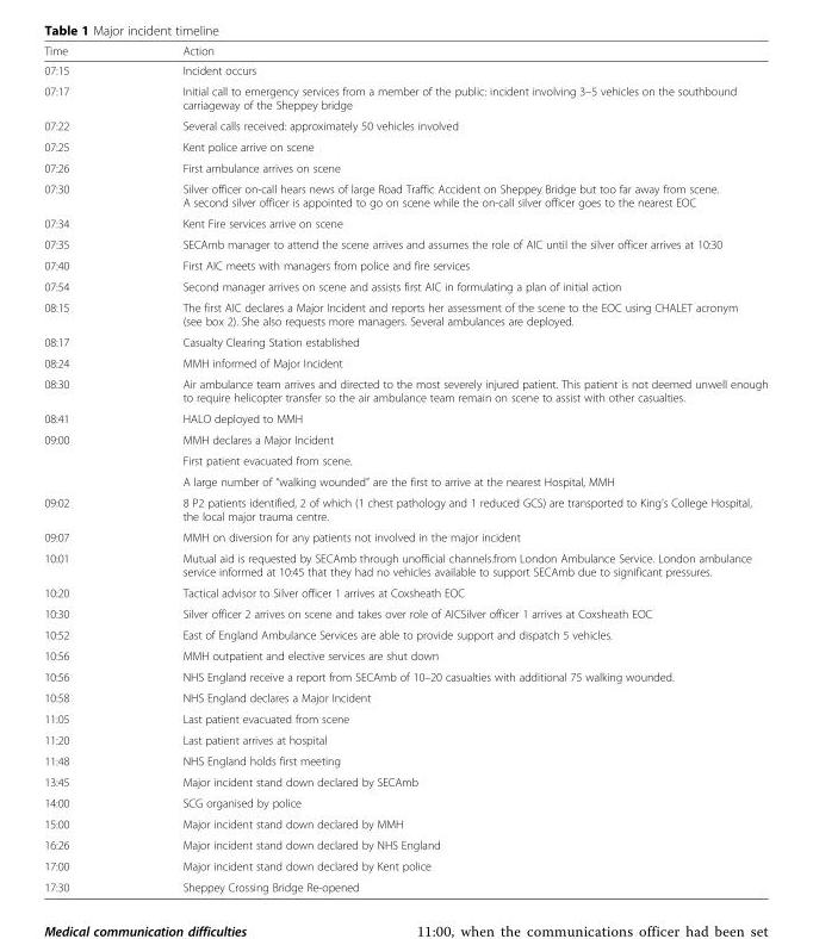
<table><thead><tr><td>Time</td><td>Action</td></tr></thead><tbody><tr><td>07:15</td><td>Incident occurs</td></tr><tr><td>07:17</td><td>Initial call to emergency services from a member of the public: incident involving 3–5 vehicles on the southbound carriageway of the Sheppey bridge</td></tr><tr><td>07:22</td><td>Several calls received: approximately 50 vehicles involved</td></tr><tr><td>07:25</td><td>Kent police arrive on scene</td></tr><tr><td>07:26</td><td>First ambulance arrives on scene</td></tr><tr><td>07:30</td><td>Silver officer on-call hears news of large Road Traffic Accident on Sheppey Bridge but too far away from scene. A second silver officer is appointed to go on scene while the on-call silver officer goes to the nearest EOC</td></tr><tr><td>07:34</td><td>Kent Fire services arrive on scene</td></tr><tr><td>07:35</td><td>SECAmb manager to attend the scene arrives and assumes the role of AIC until the silver officer arrives at 10:30</td></tr><tr><td>07:40</td><td>First AIC meets with managers from police and fire services</td></tr><tr><td>07:54</td><td>Second manager arrives on scene and assists first AIC in formulating a plan of initial action</td></tr><tr><td>08:15</td><td>The first AIC declares a Major Incident and reports her assessment of the scene to the EOC using CHALET acronym (see box 2). She also requests more managers. Several ambulances are deployed.</td></tr><tr><td>08:17</td><td>Casualty Clearing Station established</td></tr><tr><td>08:24</td><td>MMH informed of Major Incident</td></tr><tr><td>08:30</td><td>Air ambulance team arrives and directed to the most severely injured patient. This patient is not deemed unwell enough to require helicopter transfer so the air ambulance team remain on scene to assist with other casualties.</td></tr><tr><td>08:41</td><td>HALO deployed to MMH</td></tr><tr><td rowspan="3">09:00</td><td>MMH declares a Major Incident</td></tr><tr><td>First patient evacuated from scene.</td></tr><tr><td>A large number of “walking wounded” are the first to arrive at the nearest Hospital, MMH</td></tr><tr><td>09:02</td><td>8 P2 patients identified, 2 of which (1 chest pathology and 1 reduced GCS) are transported to King’s College Hospital, the local major trauma centre.</td></tr><tr><td>09:07</td><td>MMH on diversion for any patients not involved in the major incident</td></tr><tr><td>10:01</td><td>Mutual aid is requested by SECAmb through unofficial channels.from London Ambulance Service. London ambulance service informed at 10:45 that they had no vehicles available to support SECAmb due to significant pressures.</td></tr><tr><td>10:20</td><td>Tactical advisor to Silver officer 1 arrives at Coxsheath EOC</td></tr><tr><td>10:30</td><td>Silver officer 2 arrives on scene and takes over role of AICSilver officer 1 arrives at Coxsheath EOC</td></tr><tr><td>10:52</td><td>East of England Ambulance Services are able to provide support and dispatch 5 vehicles.</td></tr><tr><td>10:56</td><td>MMH outpatient and elective services are shut down</td></tr><tr><td>10:56</td><td>NHS England receive a report from SECAmb of 10–20 casualties with additional 75 walking wounded.</td></tr><tr><td>10:58</td><td>NHS England declares a Major Incident</td></tr><tr><td>11:05</td><td>Last patient evacuated from scene</td></tr><tr><td>11:20</td><td>Last patient arrives at hospital</td></tr><tr><td>11:48</td><td>NHS England holds first meeting</td></tr><tr><td>13:45</td><td>Major incident stand down declared by SECAmb</td></tr><tr><td>14:00</td><td>SCG organised by police</td></tr><tr><td>15:00</td><td>Major incident stand down declared by MMH</td></tr><tr><td>16:26</td><td>Major incident stand down declared by NHS England</td></tr><tr><td>17:00</td><td>Major incident stand down declared by Kent police</td></tr><tr><td>17:30</td><td>Sheppey Crossing Bridge Re-opened</td></tr></tbody></table>